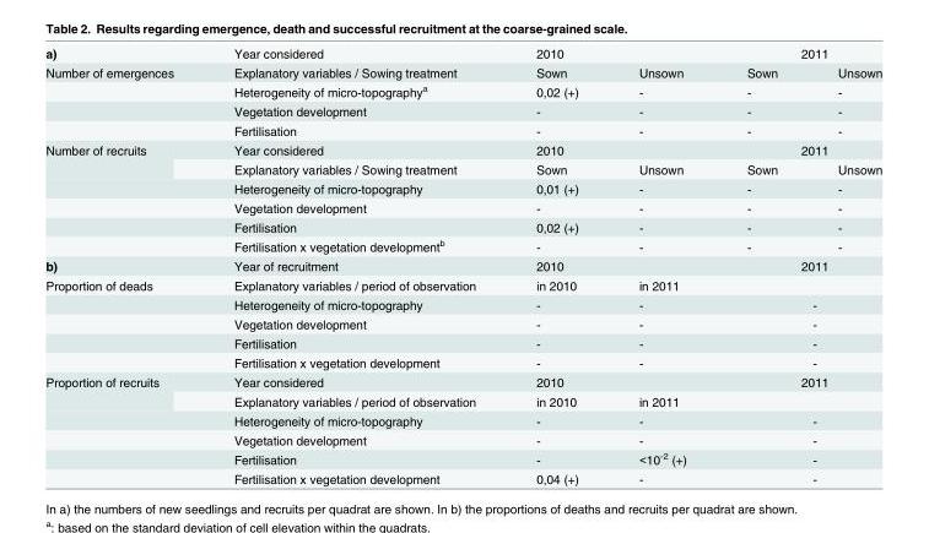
<table><tbody><tr><td>a)</td><td>Year considered</td><td>2010</td><td></td><td colspan="2">2011</td></tr><tr><td rowspan="4">Number of emergences</td><td>Explanatory variables / Sowing treatment</td><td>Sown</td><td>Unsown</td><td>Sown</td><td>Unsown</td></tr><tr><td>Heterogeneity of micro-topography<sup>a</sup></td><td>0,02 (+)</td><td>-</td><td>-</td><td>-</td></tr><tr><td>Vegetation development</td><td>-</td><td>-</td><td>-</td><td>-</td></tr><tr><td>Fertilisation</td><td>-</td><td>-</td><td>-</td><td>-</td></tr><tr><td rowspan="6">Number of recruits</td><td>Year considered</td><td>2010</td><td></td><td colspan="2">2011</td></tr><tr><td>Explanatory variables / Sowing treatment</td><td>Sown</td><td>Unsown</td><td>Sown</td><td>Unsown</td></tr><tr><td>Heterogeneity of micro-topography</td><td>0,01 (+)</td><td>-</td><td>-</td><td>-</td></tr><tr><td>Vegetation development</td><td>-</td><td>-</td><td>-</td><td>-</td></tr><tr><td>Fertilisation</td><td>0,02 (+)</td><td>-</td><td>-</td><td>-</td></tr><tr><td>Fertilisation x vegetation development<sup>b</sup></td><td>-</td><td>-</td><td>-</td><td>-</td></tr><tr><td>b)</td><td>Year of recruitment</td><td>2010</td><td></td><td colspan="2">2011</td></tr><tr><td rowspan="5">Proportion of deads</td><td>Explanatory variables / period of observation</td><td>in 2010</td><td>in 2011</td><td colspan="2"></td></tr><tr><td>Heterogeneity of micro-topography</td><td>-</td><td>-</td><td colspan="2">-</td></tr><tr><td>Vegetation development</td><td>-</td><td>-</td><td colspan="2">-</td></tr><tr><td>Fertilisation</td><td>-</td><td>-</td><td colspan="2">-</td></tr><tr><td>Fertilisation x vegetation development</td><td>-</td><td>-</td><td colspan="2">-</td></tr><tr><td rowspan="6">Proportion of recruits</td><td>Year considered</td><td>2010</td><td></td><td colspan="2">2011</td></tr><tr><td>Explanatory variables / period of observation</td><td>in 2010</td><td>in 2011</td><td colspan="2"></td></tr><tr><td>Heterogeneity of micro-topography</td><td>-</td><td>-</td><td colspan="2">-</td></tr><tr><td>Vegetation development</td><td>-</td><td>-</td><td colspan="2">-</td></tr><tr><td>Fertilisation</td><td>-</td><td>&lt;10<sup>-2</sup> (+)</td><td colspan="2">-</td></tr><tr><td>Fertilisation x vegetation development</td><td>0,04 (+)</td><td>-</td><td colspan="2">-</td></tr></tbody></table>